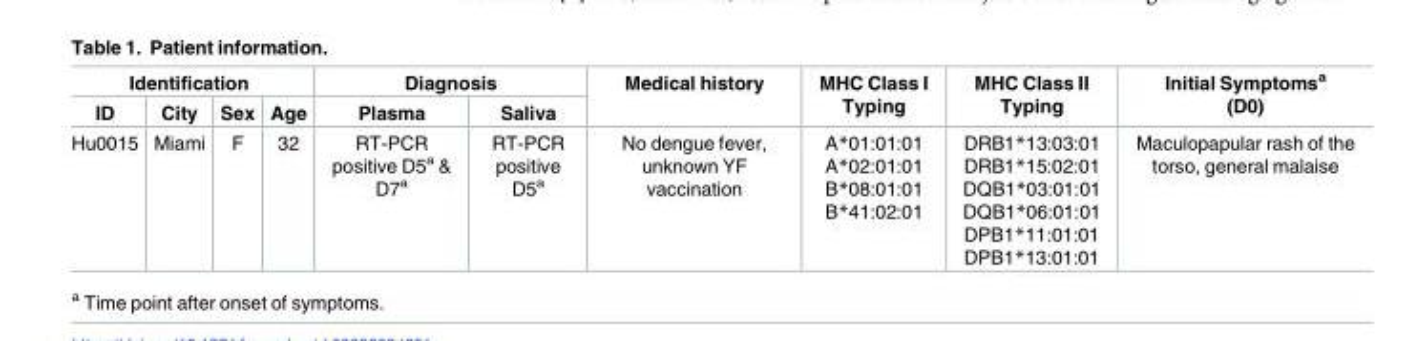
<table><thead><tr><td colspan="4">Identification</td><td colspan="2">Diagnosis</td><td rowspan="2">Medical history</td><td rowspan="2">MHC Class I Typing</td><td rowspan="2">MHC Class II Typing</td><td rowspan="2">Initial Symptoms<sup>a</sup> (D0)</td></tr><tr><td>ID</td><td>City</td><td>Sex</td><td>Age</td><td>Plasma</td><td>Saliva</td></tr></thead><tbody><tr><td>Hu0015</td><td>Miami</td><td>F</td><td>32</td><td>RT-PCR positive D5<sup>a</sup> &amp; D7<sup>a</sup></td><td>RT-PCR positive D5<sup>a</sup></td><td>No dengue fever, unknown YF vaccination</td><td>A*01:01:01 A*02:01:01 B*08:01:01 B*41:02:01</td><td>DRB1*13:03:01 DRB1*15:02:01 DQB1*03:01:01 DQB1*06:01:01 DPB1*11:01:01 DPB1*13:01:01</td><td>Maculopapular rash of the torso, general malaise</td></tr></tbody></table>